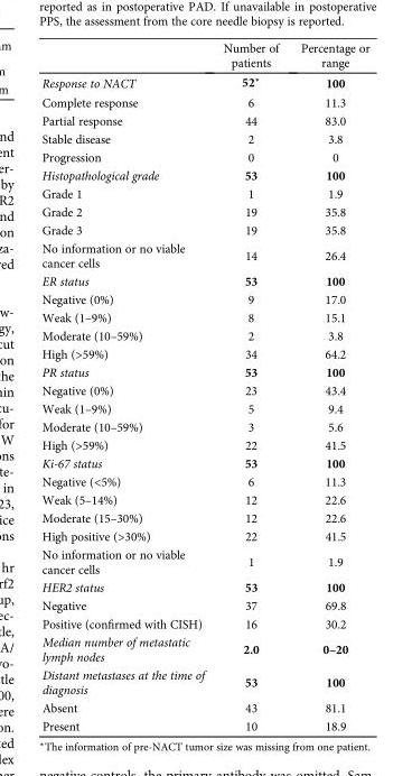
<table><thead><tr><td></td><td>Number of patients</td><td>Percentage or range</td></tr></thead><tbody><tr><td>Response to NACT</td><td>52∗</td><td>100</td></tr><tr><td>Complete response</td><td>6</td><td>11.3</td></tr><tr><td>Partial response</td><td>44</td><td>83.0</td></tr><tr><td>Stable disease</td><td>2</td><td>3.8</td></tr><tr><td>Progression</td><td>0</td><td>0</td></tr><tr><td>Histopathological grade</td><td>53</td><td>100</td></tr><tr><td>Grade 1</td><td>1</td><td>1.9</td></tr><tr><td>Grade 2</td><td>19</td><td>35.8</td></tr><tr><td>Grade 3</td><td>19</td><td>35.8</td></tr><tr><td>No information or no viable cancer cells</td><td>14</td><td>26.4</td></tr><tr><td>ER status</td><td>53</td><td>100</td></tr><tr><td>Negative (0%)</td><td>9</td><td>17.0</td></tr><tr><td>Weak (1–9%)</td><td>8</td><td>15.1</td></tr><tr><td>Moderate (10–59%)</td><td>2</td><td>3.8</td></tr><tr><td>High (&gt;59%)</td><td>34</td><td>64.2</td></tr><tr><td>PR status</td><td>53</td><td>100</td></tr><tr><td>Negative (0%)</td><td>23</td><td>43.4</td></tr><tr><td>Weak (1–9%)</td><td>5</td><td>9.4</td></tr><tr><td>Moderate (10–59%)</td><td>3</td><td>5.6</td></tr><tr><td>High (&gt;59%)</td><td>22</td><td>41.5</td></tr><tr><td>Ki-67 status</td><td>53</td><td>100</td></tr><tr><td>Negative (&lt;5%)</td><td>6</td><td>11.3</td></tr><tr><td>Weak (5–14%)</td><td>12</td><td>22.6</td></tr><tr><td>Moderate (15–30%)</td><td>12</td><td>22.6</td></tr><tr><td>High positive (&gt;30%)</td><td>22</td><td>41.5</td></tr><tr><td>No information or no viable cancer cells</td><td>1</td><td>1.9</td></tr><tr><td>HER2 status</td><td>53</td><td>100</td></tr><tr><td>Negative</td><td>37</td><td>69.8</td></tr><tr><td>Positive (confirmed with CISH)</td><td>16</td><td>30.2</td></tr><tr><td>Median number of metastatic lymph nodes</td><td>2.0</td><td>0–20</td></tr><tr><td>Distant metastases at the time of diagnosis</td><td>53</td><td>100</td></tr><tr><td>Absent</td><td>43</td><td>81.1</td></tr><tr><td>Present</td><td>10</td><td>18.9</td></tr></tbody></table>